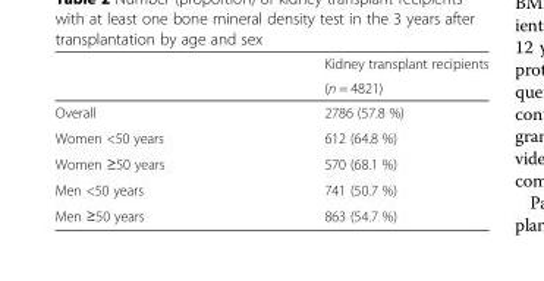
<table><thead><tr><td rowspan="2"></td><td rowspan="2">Kidney transplant recipients (n = 4821)</td></tr><tr></tr></thead><tbody><tr><td>Overall</td><td>2786 (57.8 %)</td></tr><tr><td>Women &lt;50 years</td><td>612 (64.8 %)</td></tr><tr><td>Women ≥50 years</td><td>570 (68.1 %)</td></tr><tr><td>Men &lt;50 years</td><td>741 (50.7 %)</td></tr><tr><td>Men ≥50 years</td><td>863 (54.7 %)</td></tr></tbody></table>